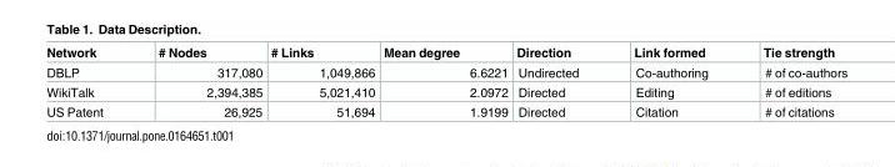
<table><thead><tr><td>Network</td><td># Nodes</td><td># Links</td><td>Mean degree</td><td>Direction</td><td>Link formed</td><td>Tie strength</td></tr></thead><tbody><tr><td>DBLP</td><td>317,080</td><td>1,049,866</td><td>6.6221</td><td>Undirected</td><td>Co-authoring</td><td># of co-authors</td></tr><tr><td>WikiTalk</td><td>2,394,385</td><td>5,021,410</td><td>2.0972</td><td>Directed</td><td>Editing</td><td># of editions</td></tr><tr><td>US Patent</td><td>26,925</td><td>51,694</td><td>1.9199</td><td>Directed</td><td>Citation</td><td># of citations</td></tr></tbody></table>